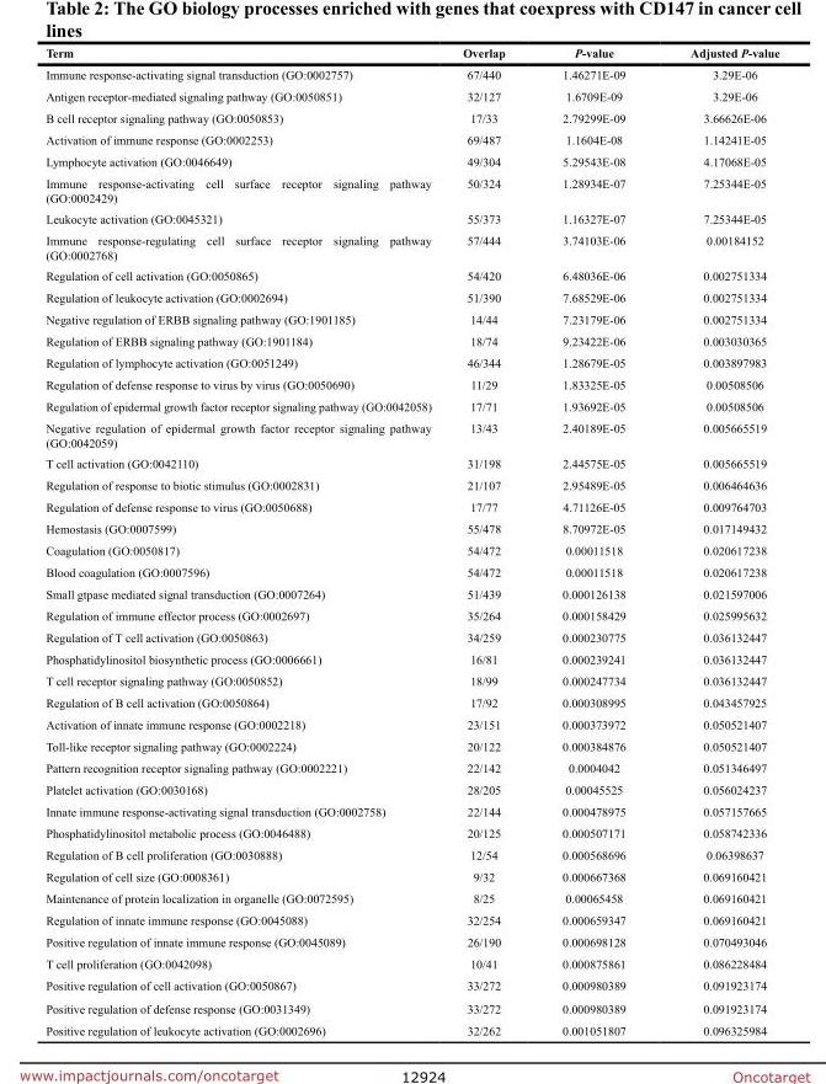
<table><thead><tr><td>Term</td><td>Overlap</td><td>P-value</td><td>Adjusted P-value</td></tr></thead><tbody><tr><td>Immune response-activating signal transduction (GO:0002757)</td><td>67/440</td><td>1.46271E-09</td><td>3.29E-06</td></tr><tr><td>Antigen receptor-mediated signaling pathway (GO:0050851)</td><td>32/127</td><td>1.6709E-09</td><td>3.29E-06</td></tr><tr><td>B cell receptor signaling pathway (GO:0050853)</td><td>17/33</td><td>2.79299E-09</td><td>3.66626E-06</td></tr><tr><td>Activation of immune response (GO:0002253)</td><td>69/487</td><td>1.1604E-08</td><td>1.14241E-05</td></tr><tr><td>Lymphocyte activation (GO:0046649)</td><td>49/304</td><td>5.29543E-08</td><td>4.17068E-05</td></tr><tr><td>Immune response-activating cell surface receptor signaling pathway (GO:0002429)</td><td>50/324</td><td>1.28934E-07</td><td>7.25344E-05</td></tr><tr><td>Leukocyte activation (GO:0045321)</td><td>55/373</td><td>1.16327E-07</td><td>7.25344E-05</td></tr><tr><td>Immune response-regulating cell surface receptor signaling pathway (GO:0002768)</td><td>57/444</td><td>3.74103E-06</td><td>0.00184152</td></tr><tr><td>Regulation of cell activation (GO:0050865)</td><td>54/420</td><td>6.48036E-06</td><td>0.002751334</td></tr><tr><td>Regulation of leukocyte activation (GO:0002694)</td><td>51/390</td><td>7.68529E-06</td><td>0.002751334</td></tr><tr><td>Negative regulation of ERBB signaling pathway (GO:1901185)</td><td>14/44</td><td>7.23179E-06</td><td>0.002751334</td></tr><tr><td>Regulation of ERBB signaling pathway (GO:1901184)</td><td>18/74</td><td>9.23422E-06</td><td>0.003030365</td></tr><tr><td>Regulation of lymphocyte activation (GO:0051249)</td><td>46/344</td><td>1.28679E-05</td><td>0.003897983</td></tr><tr><td>Regulation of defense response to virus by virus (GO:0050690)</td><td>11/29</td><td>1.83325E-05</td><td>0.00508506</td></tr><tr><td>Regulation of epidermal growth factor receptor signaling pathway (GO:0042058)</td><td>17/71</td><td>1.93692E-05</td><td>0.00508506</td></tr><tr><td>Negative regulation of epidermal growth factor receptor signaling pathway (GO:0042059)</td><td>13/43</td><td>2.40189E-05</td><td>0.005665519</td></tr><tr><td>T cell activation (GO:0042110)</td><td>31/198</td><td>2.44575E-05</td><td>0.005665519</td></tr><tr><td>Regulation of response to biotic stimulus (GO:0002831)</td><td>21/107</td><td>2.95489E-05</td><td>0.006464636</td></tr><tr><td>Regulation of defense response to virus (GO:0050688)</td><td>17/77</td><td>4.71126E-05</td><td>0.009764703</td></tr><tr><td>Hemostasis (GO:0007599)</td><td>55/478</td><td>8.70972E-05</td><td>0.017149432</td></tr><tr><td>Coagulation (GO:0050817)</td><td>54/472</td><td>0.00011518</td><td>0.020617238</td></tr><tr><td>Blood coagulation (GO:0007596)</td><td>54/472</td><td>0.00011518</td><td>0.020617238</td></tr><tr><td>Small gtpase mediated signal transduction (GO:0007264)</td><td>51/439</td><td>0.000126138</td><td>0.021597006</td></tr><tr><td>Regulation of immune effector process (GO:0002697)</td><td>35/264</td><td>0.000158429</td><td>0.025995632</td></tr><tr><td>Regulation of T cell activation (GO:0050863)</td><td>34/259</td><td>0.000230775</td><td>0.036132447</td></tr><tr><td>Phosphatidylinositol biosynthetic process (GO:0006661)</td><td>16/81</td><td>0.000239241</td><td>0.036132447</td></tr><tr><td>T cell receptor signaling pathway (GO:0050852)</td><td>18/99</td><td>0.000247734</td><td>0.036132447</td></tr><tr><td>Regulation of B cell activation (GO:0050864)</td><td>17/92</td><td>0.000308995</td><td>0.043457925</td></tr><tr><td>Activation of innate immune response (GO:0002218)</td><td>23/151</td><td>0.000373972</td><td>0.050521407</td></tr><tr><td>Toll-like receptor signaling pathway (GO:0002224)</td><td>20/122</td><td>0.000384876</td><td>0.050521407</td></tr><tr><td>Pattern recognition receptor signaling pathway (GO:0002221)</td><td>22/142</td><td>0.0004042</td><td>0.051346497</td></tr><tr><td>Platelet activation (GO:0030168)</td><td>28/205</td><td>0.00045525</td><td>0.056024237</td></tr><tr><td>Innate immune response-activating signal transduction (GO:0002758)</td><td>22/144</td><td>0.000478975</td><td>0.057157665</td></tr><tr><td>Phosphatidylinositol metabolic process (GO:0046488)</td><td>20/125</td><td>0.000507171</td><td>0.058742336</td></tr><tr><td>Regulation of B cell proliferation (GO:0030888)</td><td>12/54</td><td>0.000568696</td><td>0.06398637</td></tr><tr><td>Regulation of cell size (GO:0008361)</td><td>9/32</td><td>0.000667368</td><td>0.069160421</td></tr><tr><td>Maintenance of protein localization in organelle (GO:0072595)</td><td>8/25</td><td>0.00065458</td><td>0.069160421</td></tr><tr><td>Regulation of innate immune response (GO:0045088)</td><td>32/254</td><td>0.000659347</td><td>0.069160421</td></tr><tr><td>Positive regulation of innate immune response (GO:0045089)</td><td>26/190</td><td>0.000698128</td><td>0.070493046</td></tr><tr><td>T cell proliferation (GO:0042098)</td><td>10/41</td><td>0.000875861</td><td>0.086228484</td></tr><tr><td>Positive regulation of cell activation (GO:0050867)</td><td>33/272</td><td>0.000980389</td><td>0.091923174</td></tr><tr><td>Positive regulation of defense response (GO:0031349)</td><td>33/272</td><td>0.000980389</td><td>0.091923174</td></tr><tr><td>Positive regulation of leukocyte activation (GO:0002696)</td><td>32/262</td><td>0.001051807</td><td>0.096325984</td></tr></tbody></table>